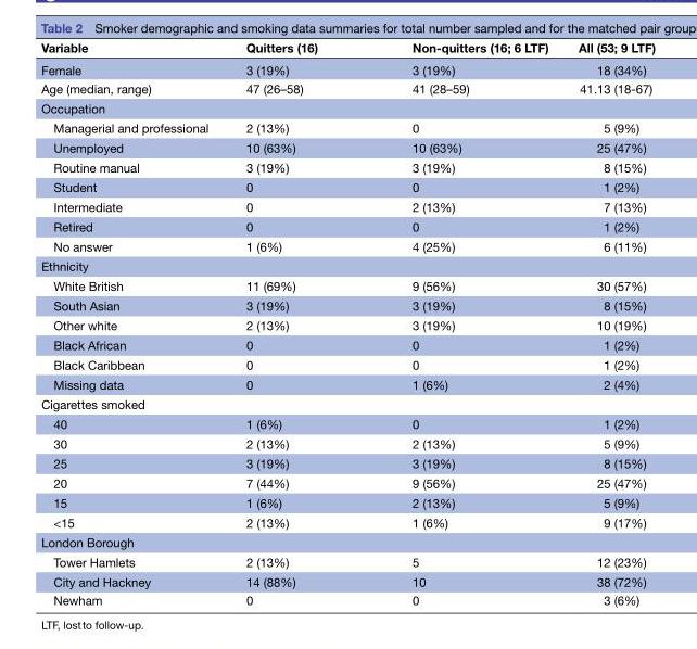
<table><thead><tr><td>Variable</td><td>Quitters (16)</td><td>Non-quitters (16; 6 LTF)</td><td>All (53; 9 LTF)</td></tr></thead><tbody><tr><td>Female</td><td>3 (19%)</td><td>3 (19%)</td><td>18 (34%)</td></tr><tr><td>Age (median, range)</td><td>47 (26–58)</td><td>41 (28–59)</td><td>41.13 (18-67)</td></tr><tr><td colspan="4">Occupation</td></tr><tr><td>Managerial and professional</td><td>2 (13%)</td><td>0</td><td>5 (9%)</td></tr><tr><td>Unemployed</td><td>10 (63%)</td><td>10 (63%)</td><td>25 (47%)</td></tr><tr><td>Routine manual</td><td>3 (19%)</td><td>3 (19%)</td><td>8 (15%)</td></tr><tr><td>Student</td><td>0</td><td>0</td><td>1 (2%)</td></tr><tr><td>Intermediate</td><td>0</td><td>2 (13%)</td><td>7 (13%)</td></tr><tr><td>Retired</td><td>0</td><td>0</td><td>1 (2%)</td></tr><tr><td>No answer</td><td>1 (6%)</td><td>4 (25%)</td><td>6 (11%)</td></tr><tr><td colspan="4">Ethnicity</td></tr><tr><td>White British</td><td>11 (69%)</td><td>9 (56%)</td><td>30 (57%)</td></tr><tr><td>South Asian</td><td>3 (19%)</td><td>3 (19%)</td><td>8 (15%)</td></tr><tr><td>Other white</td><td>2 (13%)</td><td>3 (19%)</td><td>10 (19%)</td></tr><tr><td>Black African</td><td>0</td><td>0</td><td>1 (2%)</td></tr><tr><td>Black Caribbean</td><td>0</td><td>0</td><td>1 (2%)</td></tr><tr><td>Missing data</td><td>0</td><td>1 (6%)</td><td>2 (4%)</td></tr><tr><td colspan="4">Cigarettes smoked</td></tr><tr><td>40</td><td>1 (6%)</td><td>0</td><td>1 (2%)</td></tr><tr><td>30</td><td>2 (13%)</td><td>2 (13%)</td><td>5 (9%)</td></tr><tr><td>25</td><td>3 (19%)</td><td>3 (19%)</td><td>8 (15%)</td></tr><tr><td>20</td><td>7 (44%)</td><td>9 (56%)</td><td>25 (47%)</td></tr><tr><td>15</td><td>1 (6%)</td><td>2 (13%)</td><td>5 (9%)</td></tr><tr><td>&lt;15</td><td>2 (13%)</td><td>1 (6%)</td><td>9 (17%)</td></tr><tr><td colspan="4">London Borough</td></tr><tr><td>Tower Hamlets</td><td>2 (13%)</td><td>5</td><td>12 (23%)</td></tr><tr><td>City and Hackney</td><td>14 (88%)</td><td>10</td><td>38 (72%)</td></tr><tr><td>Newham</td><td>0</td><td>0</td><td>3 (6%)</td></tr></tbody></table>